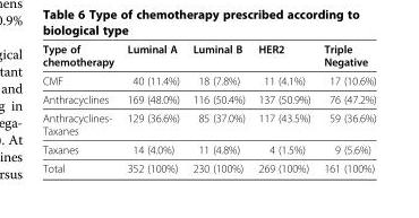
<table><thead><tr><td>Type of chemotherapy</td><td>Luminal A</td><td>Luminal B</td><td>HER2</td><td>Triple Negative</td></tr></thead><tbody><tr><td>CMF</td><td>40 (11.4%)</td><td>18 (7.8%)</td><td>11 (4.1%)</td><td>17 (10.6%)</td></tr><tr><td>Anthracyclines</td><td>169 (48.0%)</td><td>116 (50.4%)</td><td>137 (50.9%)</td><td>76 (47.2%)</td></tr><tr><td>Anthracyclines- Taxanes</td><td>129 (36.6%)</td><td>85 (37.0%)</td><td>117 (43.5%)</td><td>59 (36.6%)</td></tr><tr><td>Taxanes</td><td>14 (4.0%)</td><td>11 (4.8%)</td><td>4 (1.5%)</td><td>9 (5.6%)</td></tr><tr><td>Total</td><td>352 (100%)</td><td>230 (100%)</td><td>269 (100%)</td><td>161 (100%)</td></tr></tbody></table>